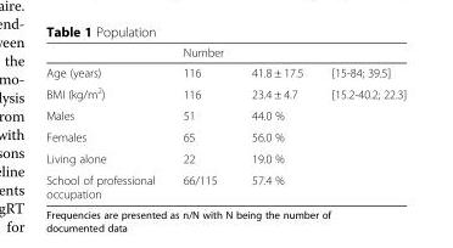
<table><thead><tr><td></td><td>Number</td><td></td><td></td></tr></thead><tbody><tr><td>Age (years)</td><td>116</td><td>41.8 ± 17.5</td><td>[15-84; 39.5]</td></tr><tr><td>BMI (kg/m<sup>2</sup>)</td><td>116</td><td>23.4 ± 4.7</td><td>[15.2-40.2; 22.3]</td></tr><tr><td>Males</td><td>51</td><td>44.0 %</td><td></td></tr><tr><td>Females</td><td>65</td><td>56.0 %</td><td></td></tr><tr><td>Living alone</td><td>22</td><td>19.0 %</td><td></td></tr><tr><td>School of professional occupation</td><td>66/115</td><td>57.4 %</td><td></td></tr></tbody></table>